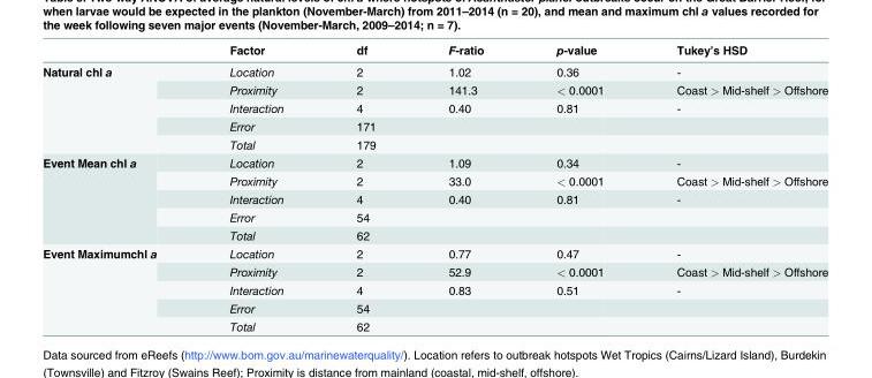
<table><thead><tr><td></td><td>Factor</td><td>df</td><td>F-ratio</td><td>p-value</td><td>Tukey’s HSD</td></tr></thead><tbody><tr><td rowspan="5">Natural chl a</td><td>Location</td><td>2</td><td>1.02</td><td>0.36</td><td>-</td></tr><tr><td>Proximity</td><td>2</td><td>141.3</td><td>&lt; 0.0001</td><td>Coast &gt; Mid-shelf &gt; Offshore</td></tr><tr><td>Interaction</td><td>4</td><td>0.40</td><td>0.81</td><td>-</td></tr><tr><td>Error</td><td>171</td><td></td><td></td><td></td></tr><tr><td>Total</td><td>179</td><td></td><td></td><td></td></tr><tr><td rowspan="5">Event Mean chl a</td><td>Location</td><td>2</td><td>1.09</td><td>0.34</td><td>-</td></tr><tr><td>Proximity</td><td>2</td><td>33.0</td><td>&lt; 0.0001</td><td>Coast &gt; Mid-shelf &gt; Offshore</td></tr><tr><td>Interaction</td><td>4</td><td>0.40</td><td>0.81</td><td>-</td></tr><tr><td>Error</td><td>54</td><td></td><td></td><td></td></tr><tr><td>Total</td><td>62</td><td></td><td></td><td></td></tr><tr><td rowspan="5">Event Maximumchl a</td><td>Location</td><td>2</td><td>0.77</td><td>0.47</td><td>-</td></tr><tr><td>Proximity</td><td>2</td><td>52.9</td><td>&lt; 0.0001</td><td>Coast &gt; Mid-shelf &gt; Offshore</td></tr><tr><td>Interaction</td><td>4</td><td>0.83</td><td>0.51</td><td>-</td></tr><tr><td>Error</td><td>54</td><td></td><td></td><td></td></tr><tr><td>Total</td><td>62</td><td></td><td></td><td></td></tr></tbody></table>